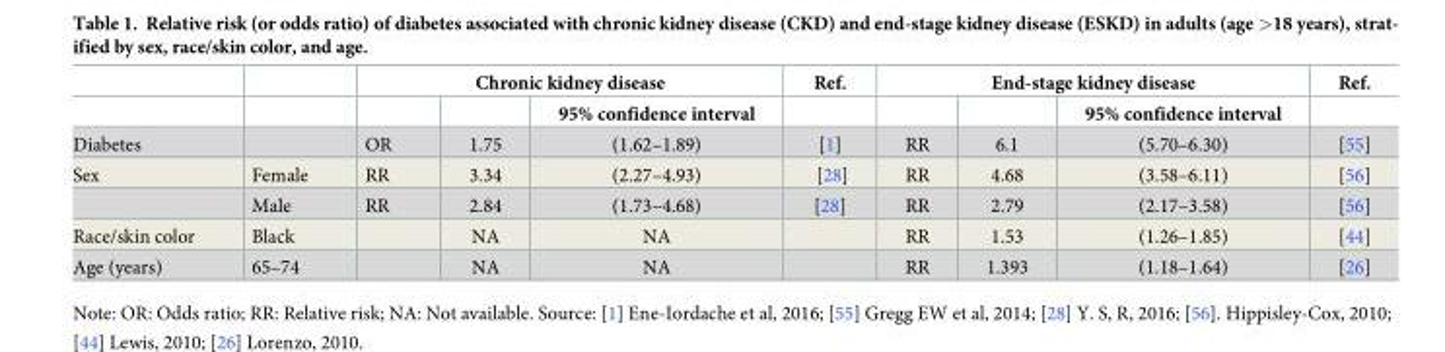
<table><thead><tr><td rowspan="2"></td><td rowspan="2"></td><td colspan="3">Chronic kidney disease</td><td rowspan="2">Ref.</td><td colspan="3">End-stage kidney disease</td><td rowspan="2">Ref.</td></tr><tr><td></td><td></td><td>95% confidence interval</td><td></td><td></td><td>95% confidence interval</td></tr></thead><tbody><tr><td>Diabetes</td><td></td><td>OR</td><td>1.75</td><td>(1.62–1.89)</td><td>[1]</td><td>RR</td><td>6.1</td><td>(5.70–6.30)</td><td>[55]</td></tr><tr><td rowspan="2">Sex</td><td>Female</td><td>RR</td><td>3.34</td><td>(2.27–4.93)</td><td>[28]</td><td>RR</td><td>4.68</td><td>(3.58–6.11)</td><td>[56]</td></tr><tr><td>Male</td><td>RR</td><td>2.84</td><td>(1.73–4.68)</td><td>[28]</td><td>RR</td><td>2.79</td><td>(2.17–3.58)</td><td>[56]</td></tr><tr><td>Race/skin color</td><td>Black</td><td></td><td>NA</td><td>NA</td><td></td><td>RR</td><td>1.53</td><td>(1.26–1.85)</td><td>[44]</td></tr><tr><td>Age (years)</td><td>65–74</td><td></td><td>NA</td><td>NA</td><td></td><td>RR</td><td>1.393</td><td>(1.18–1.64)</td><td>[26]</td></tr></tbody></table>